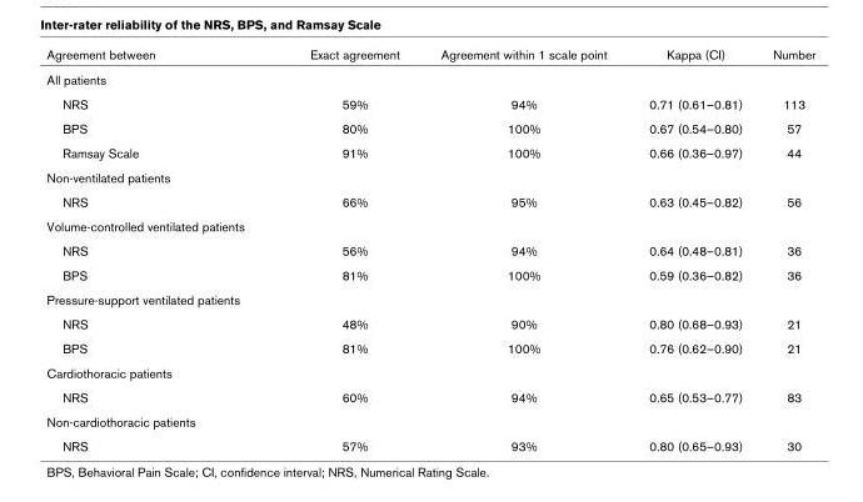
<table><thead><tr><td>Agreement between</td><td>Exact agreement</td><td>Agreement within 1 scale point</td><td>Kappa (CI)</td><td>Number</td></tr></thead><tbody><tr><td colspan="5">All patients</td></tr><tr><td>NRS</td><td>59%</td><td>94%</td><td>0.71 (0.61–0.81)</td><td>113</td></tr><tr><td>BPS</td><td>80%</td><td>100%</td><td>0.67 (0.54–0.80)</td><td>57</td></tr><tr><td>Ramsay Scale</td><td>91%</td><td>100%</td><td>0.66 (0.36–0.97)</td><td>44</td></tr><tr><td colspan="5">Non-ventilated patients</td></tr><tr><td>NRS</td><td>66%</td><td>95%</td><td>0.63 (0.45–0.82)</td><td>56</td></tr><tr><td colspan="5">Volume-controlled ventilated patients</td></tr><tr><td>NRS</td><td>56%</td><td>94%</td><td>0.64 (0.48–0.81)</td><td>36</td></tr><tr><td>BPS</td><td>81%</td><td>100%</td><td>0.59 (0.36–0.82)</td><td>36</td></tr><tr><td colspan="5">Pressure-support ventilated patients</td></tr><tr><td>NRS</td><td>48%</td><td>90%</td><td>0.80 (0.68–0.93)</td><td>21</td></tr><tr><td>BPS</td><td>81%</td><td>100%</td><td>0.76 (0.62–0.90)</td><td>21</td></tr><tr><td colspan="5">Cardiothoracic patients</td></tr><tr><td>NRS</td><td>60%</td><td>94%</td><td>0.65 (0.53–0.77)</td><td>83</td></tr><tr><td colspan="5">Non-cardiothoracic patients</td></tr><tr><td>NRS</td><td>57%</td><td>93%</td><td>0.80 (0.65–0.93)</td><td>30</td></tr></tbody></table>